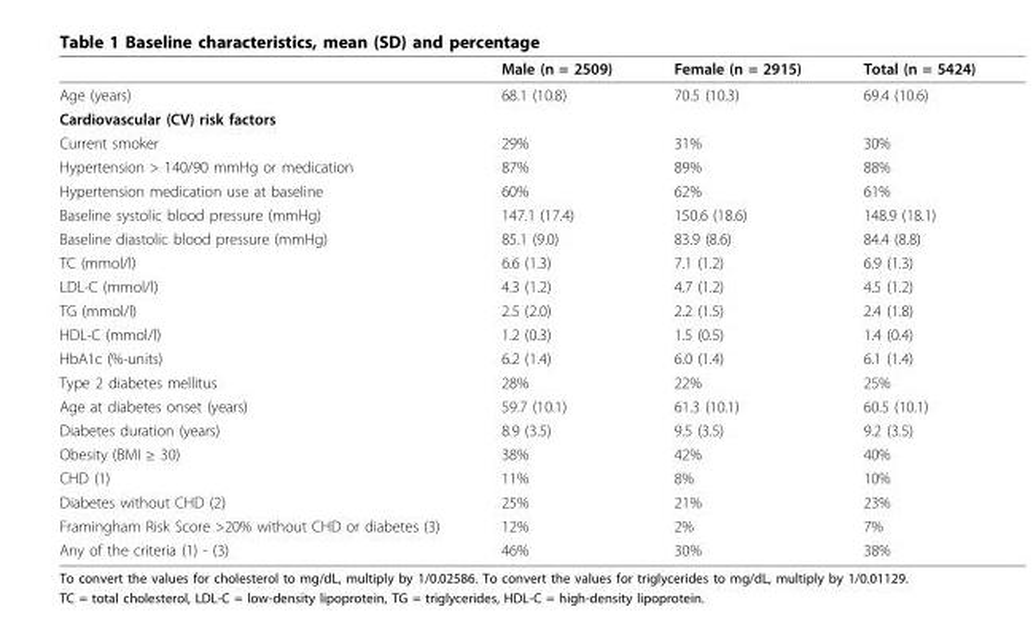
<table><thead><tr><td></td><td>Male (n = 2509)</td><td>Female (n = 2915)</td><td>Total (n = 5424)</td></tr></thead><tbody><tr><td>Age (years)</td><td>68.1 (10.8)</td><td>70.5 (10.3)</td><td>69.4 (10.6)</td></tr><tr><td colspan="4">Cardiovascular (CV) risk factors</td></tr><tr><td>Current smoker</td><td>29%</td><td>31%</td><td>30%</td></tr><tr><td>Hypertension &gt; 140/90 mmHg or medication</td><td>87%</td><td>89%</td><td>88%</td></tr><tr><td>Hypertension medication use at baseline</td><td>60%</td><td>62%</td><td>61%</td></tr><tr><td>Baseline systolic blood pressure (mmHg)</td><td>147.1 (17.4)</td><td>150.6 (18.6)</td><td>148.9 (18.1)</td></tr><tr><td>Baseline diastolic blood pressure (mmHg)</td><td>85.1 (9.0)</td><td>83.9 (8.6)</td><td>84.4 (8.8)</td></tr><tr><td>TC (mmol/l)</td><td>6.6 (1.3)</td><td>7.1 (1.2)</td><td>6.9 (1.3)</td></tr><tr><td>LDL-C (mmol/l)</td><td>4.3 (1.2)</td><td>4.7 (1.2)</td><td>4.5 (1.2)</td></tr><tr><td>TG (mmol/l)</td><td>2.5 (2.0)</td><td>2.2 (1.5)</td><td>2.4 (1.8)</td></tr><tr><td>HDL-C (mmol/l)</td><td>1.2 (0.3)</td><td>1.5 (0.5)</td><td>1.4 (0.4)</td></tr><tr><td>HbA1c (%-units)</td><td>6.2 (1.4)</td><td>6.0 (1.4)</td><td>6.1 (1.4)</td></tr><tr><td>Type 2 diabetes mellitus</td><td>28%</td><td>22%</td><td>25%</td></tr><tr><td>Age at diabetes onset (years)</td><td>59.7 (10.1)</td><td>61.3 (10.1)</td><td>60.5 (10.1)</td></tr><tr><td>Diabetes duration (years)</td><td>8.9 (3.5)</td><td>9.5 (3.5)</td><td>9.2 (3.5)</td></tr><tr><td>Obesity (BMI ≥ 30)</td><td>38%</td><td>42%</td><td>40%</td></tr><tr><td>CHD (1)</td><td>11%</td><td>8%</td><td>10%</td></tr><tr><td>Diabetes without CHD (2)</td><td>25%</td><td>21%</td><td>23%</td></tr><tr><td>Framingham Risk Score &gt;20% without CHD or diabetes (3)</td><td>12%</td><td>2%</td><td>7%</td></tr><tr><td>Any of the criteria (1) - (3)</td><td>46%</td><td>30%</td><td>38%</td></tr></tbody></table>